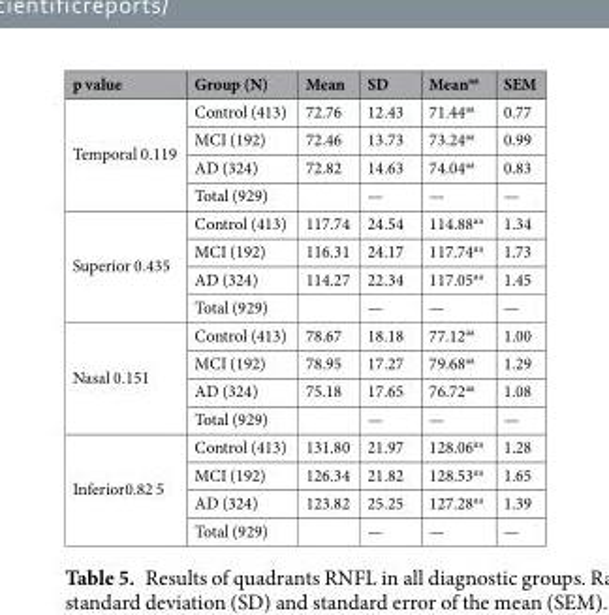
<table><thead><tr><td>p value</td><td>Group (N)</td><td>Mean</td><td>SD</td><td>Mean<sup>aa</sup></td><td>SEM</td></tr></thead><tbody><tr><td rowspan="4">Temporal 0.119</td><td>Control (413)</td><td>72.76</td><td>12.43</td><td>71.44<sup>aa</sup></td><td>0.77</td></tr><tr><td>MCI (192)</td><td>72.46</td><td>13.73</td><td>73.24<sup>aa</sup></td><td>0.99</td></tr><tr><td>AD (324)</td><td>72.82</td><td>14.63</td><td>74.04<sup>aa</sup></td><td>0.83</td></tr><tr><td>Total (929)</td><td></td><td>—</td><td>—</td><td>—</td></tr><tr><td rowspan="4">Superior 0.435</td><td>Control (413)</td><td>117.74</td><td>24.54</td><td>114.88<sup>aa</sup></td><td>1.34</td></tr><tr><td>MCI (192)</td><td>116.31</td><td>24.17</td><td>117.74<sup>aa</sup></td><td>1.73</td></tr><tr><td>AD (324)</td><td>114.27</td><td>22.34</td><td>117.05<sup>aa</sup></td><td>1.45</td></tr><tr><td>Total (929)</td><td></td><td>—</td><td>—</td><td>—</td></tr><tr><td rowspan="4">Nasal 0.151</td><td>Control (413)</td><td>78.67</td><td>18.18</td><td>77.12<sup>aa</sup></td><td>1.00</td></tr><tr><td>MCI (192)</td><td>78.95</td><td>17.27</td><td>79.68<sup>aa</sup></td><td>1.29</td></tr><tr><td>AD (324)</td><td>75.18</td><td>17.65</td><td>76.72<sup>aa</sup></td><td>1.08</td></tr><tr><td>Total (929)</td><td></td><td>—</td><td>—</td><td>—</td></tr><tr><td rowspan="4">Inferior0.82 5</td><td>Control (413)</td><td>131.80</td><td>21.97</td><td>128.06<sup>aa</sup></td><td>1.28</td></tr><tr><td>MCI (192)</td><td>126.34</td><td>21.82</td><td>128.53<sup>aa</sup></td><td>1.65</td></tr><tr><td>AD (324)</td><td>123.82</td><td>25.25</td><td>127.28<sup>aa</sup></td><td>1.39</td></tr><tr><td>Total (929)</td><td></td><td>—</td><td>—</td><td>—</td></tr></tbody></table>